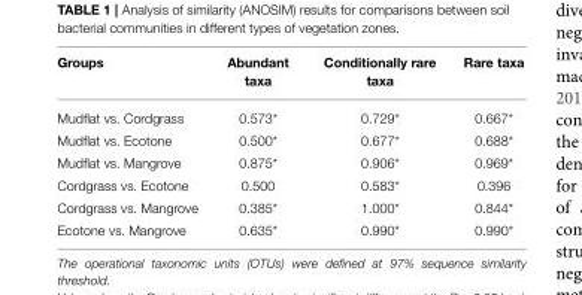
<table><thead><tr><td>Groups</td><td>Abundant taxa</td><td>Conditionally rare taxa</td><td>Rare taxa</td></tr></thead><tbody><tr><td>Mudflat vs. Cordgrass</td><td>0.573*</td><td>0.729*</td><td>0.667*</td></tr><tr><td>Mudflat vs. Ecotone</td><td>0.500*</td><td>0.677*</td><td>0.688*</td></tr><tr><td>Mudflat vs. Mangrove</td><td>0.875*</td><td>0.906*</td><td>0.969*</td></tr><tr><td>Cordgrass vs. Ecotone</td><td>0.500</td><td>0.583*</td><td>0.396</td></tr><tr><td>Cordgrass vs. Mangrove</td><td>0.385*</td><td>1.000*</td><td>0.844*</td></tr><tr><td>Ecotone vs. Mangrove</td><td>0.635*</td><td>0.990*</td><td>0.990*</td></tr></tbody></table>